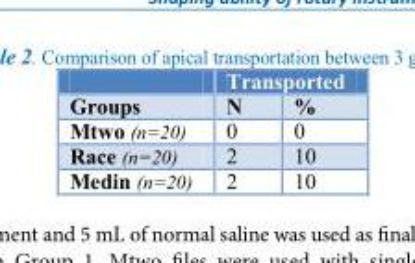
<table><thead><tr><td rowspan="2">Groups</td><td colspan="2">Transported</td></tr><tr><td>N</td><td>%</td></tr></thead><tbody><tr><td>Mtwo (n=20)</td><td>0</td><td>0</td></tr><tr><td>Race (n=20)</td><td>2</td><td>10</td></tr><tr><td>Medin (n=20)</td><td>2</td><td>10</td></tr></tbody></table>